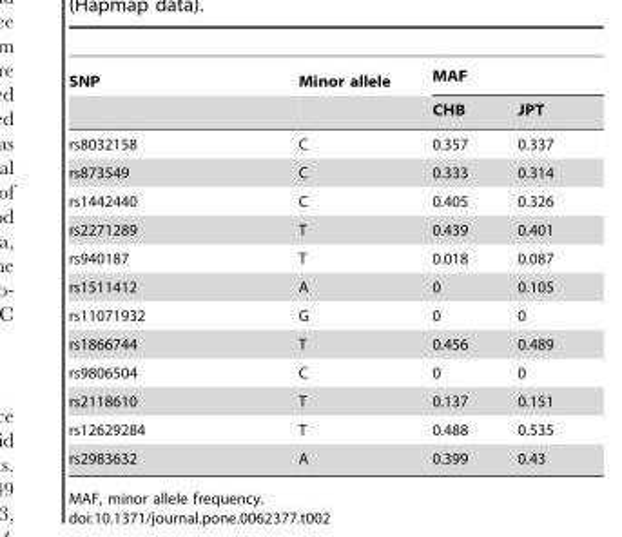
<table><thead><tr><td rowspan="2">SNP</td><td rowspan="2">Minor allele</td><td colspan="2">MAF</td></tr><tr><td>CHB</td><td>JPT</td></tr></thead><tbody><tr><td>rs8032158</td><td>C</td><td>0.357</td><td>0.337</td></tr><tr><td>rs873549</td><td>C</td><td>0.333</td><td>0.314</td></tr><tr><td>rs1442440</td><td>C</td><td>0.405</td><td>0.326</td></tr><tr><td>rs2271289</td><td>T</td><td>0.439</td><td>0.401</td></tr><tr><td>rs940187</td><td>T</td><td>0.018</td><td>0.087</td></tr><tr><td>rs1511412</td><td>A</td><td>0</td><td>0.105</td></tr><tr><td>rs11071932</td><td>G</td><td>0</td><td>0</td></tr><tr><td>rs1866744</td><td>T</td><td>0.456</td><td>0.489</td></tr><tr><td>rs9806504</td><td>C</td><td>0</td><td>0</td></tr><tr><td>rs2118610</td><td>T</td><td>0.137</td><td>0.151</td></tr><tr><td>rs12629284</td><td>T</td><td>0.488</td><td>0.535</td></tr><tr><td>rs2983632</td><td>A</td><td>0.399</td><td>0.43</td></tr></tbody></table>